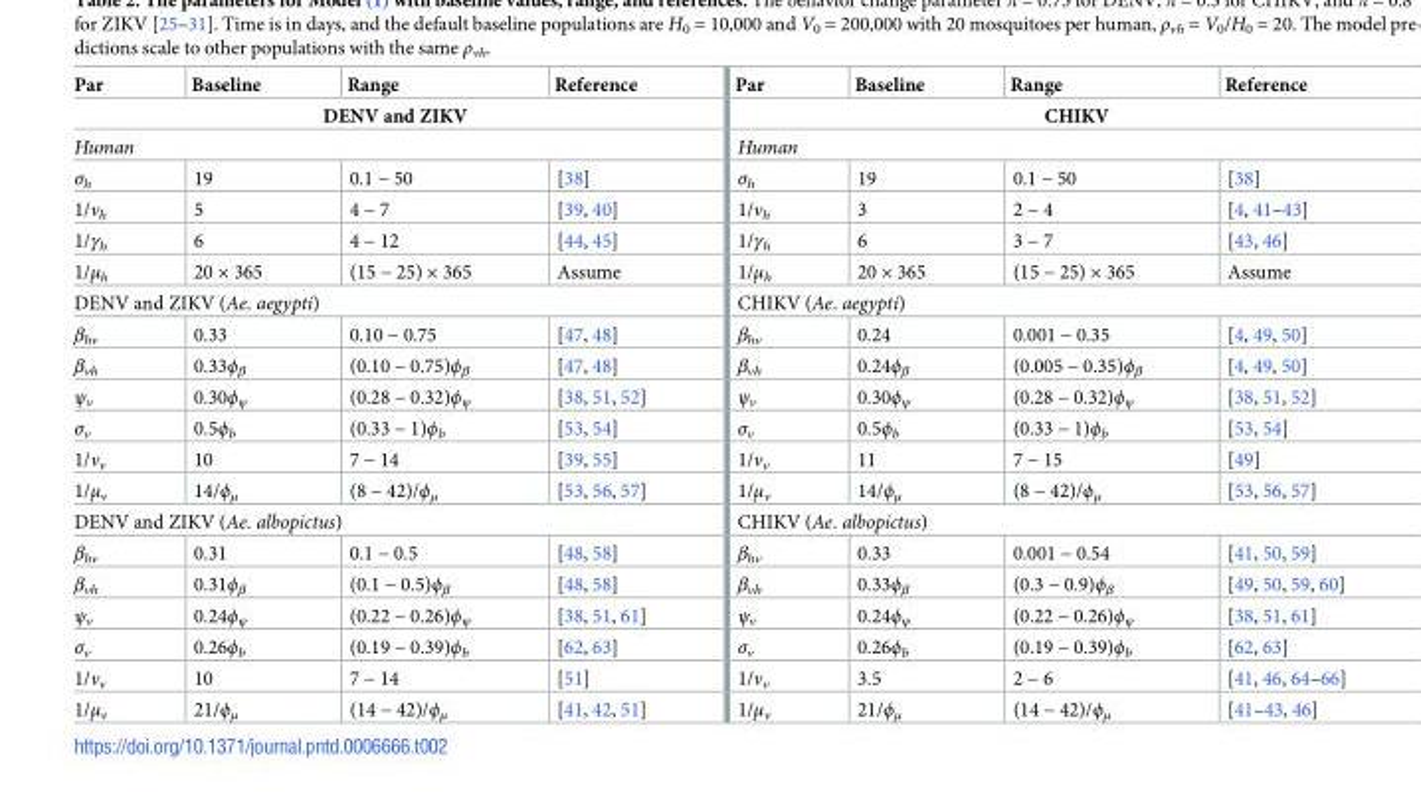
<table><thead><tr><td>Par</td><td>Baseline</td><td>Range</td><td>Reference</td><td>Par</td><td>Baseline</td><td>Range</td><td>Reference</td></tr><tr><td colspan="4">DENV and ZIKV</td><td colspan="4">CHIKV</td></tr></thead><tbody><tr><td colspan="4">Human</td><td colspan="4">Human</td></tr><tr><td>σ<sub>h</sub></td><td>19</td><td>0.1 − 50</td><td>[38]</td><td>σ<sub>h</sub></td><td>19</td><td>0.1 − 50</td><td>[38]</td></tr><tr><td>1/ν<sub>h</sub></td><td>5</td><td>4 − 7</td><td>[39, 40]</td><td>1/ν<sub>h</sub></td><td>3</td><td>2 − 4</td><td>[4, 41–43]</td></tr><tr><td>1/γ<sub>h</sub></td><td>6</td><td>4 − 12</td><td>[44, 45]</td><td>1/γ<sub>h</sub></td><td>6</td><td>3 − 7</td><td>[43, 46]</td></tr><tr><td>1/μ<sub>h</sub></td><td>20 × 365</td><td>(15 − 25) × 365</td><td>Assume</td><td>1/μ<sub>h</sub></td><td>20 × 365</td><td>(15 − 25) × 365</td><td>Assume</td></tr><tr><td colspan="4">DENV and ZIKV (Ae. aegypti)</td><td colspan="4">CHIKV (Ae. aegypti)</td></tr><tr><td>β<sub>hv</sub></td><td>0.33</td><td>0.10 − 0.75</td><td>[47, 48]</td><td>β<sub>hv</sub></td><td>0.24</td><td>0.001 − 0.35</td><td>[4, 49, 50]</td></tr><tr><td>β<sub>vh</sub></td><td>0.33ϕ<sub>β</sub></td><td>(0.10 − 0.75)ϕ<sub>β</sub></td><td>[47, 48]</td><td>β<sub>vh</sub></td><td>0.24ϕ<sub>β</sub></td><td>(0.005 − 0.35)ϕ<sub>β</sub></td><td>[4, 49, 50]</td></tr><tr><td>ψ<sub>v</sub></td><td>0.30ϕ<sub>ψ</sub></td><td>(0.28 − 0.32)ϕ<sub>ψ</sub></td><td>[38, 51, 52]</td><td>ψ<sub>v</sub></td><td>0.30ϕ<sub>ψ</sub></td><td>(0.28 − 0.32)ϕ<sub>ψ</sub></td><td>[38, 51, 52]</td></tr><tr><td>σ<sub>v</sub></td><td>0.5ϕ<sub>b</sub></td><td>(0.33 − 1)ϕ<sub>b</sub></td><td>[53, 54]</td><td>σ<sub>v</sub></td><td>0.5ϕ<sub>b</sub></td><td>(0.33 − 1)ϕ<sub>b</sub></td><td>[53, 54]</td></tr><tr><td>1/ν<sub>v</sub></td><td>10</td><td>7 − 14</td><td>[39, 55]</td><td>1/ν<sub>v</sub></td><td>11</td><td>7 − 15</td><td>[49]</td></tr><tr><td>1/μ<sub>v</sub></td><td>14/ϕ<sub>μ</sub></td><td>(8 − 42)/ϕ<sub>μ</sub></td><td>[53, 56, 57]</td><td>1/μ<sub>v</sub></td><td>14/ϕ<sub>μ</sub></td><td>(8 − 42)/ϕ<sub>μ</sub></td><td>[53, 56, 57]</td></tr><tr><td colspan="4">DENV and ZIKV (Ae. albopictus)</td><td colspan="4">CHIKV (Ae. albopictus)</td></tr><tr><td>β<sub>hv</sub></td><td>0.31</td><td>0.1 − 0.5</td><td>[48, 58]</td><td>β<sub>hv</sub></td><td>0.33</td><td>0.001 − 0.54</td><td>[41, 50, 59]</td></tr><tr><td>β<sub>vh</sub></td><td>0.31ϕ<sub>β</sub></td><td>(0.1 − 0.5)ϕ<sub>β</sub></td><td>[48, 58]</td><td>β<sub>vh</sub></td><td>0.33ϕ<sub>β</sub></td><td>(0.3 − 0.9)ϕ<sub>β</sub></td><td>[49, 50, 59, 60]</td></tr><tr><td>ψ<sub>v</sub></td><td>0.24ϕ<sub>ψ</sub></td><td>(0.22 − 0.26)ϕ<sub>ψ</sub></td><td>[38, 51, 61]</td><td>ψ<sub>v</sub></td><td>0.24ϕ<sub>ψ</sub></td><td>(0.22 − 0.26)ϕ<sub>ψ</sub></td><td>[38, 51, 61]</td></tr><tr><td>σ<sub>v</sub></td><td>0.26ϕ<sub>b</sub></td><td>(0.19 − 0.39)ϕ<sub>b</sub></td><td>[62, 63]</td><td>σ<sub>v</sub></td><td>0.26ϕ<sub>b</sub></td><td>(0.19 − 0.39)ϕ<sub>b</sub></td><td>[62, 63]</td></tr><tr><td>1/ν<sub>v</sub></td><td>10</td><td>7 − 14</td><td>[51]</td><td>1/ν<sub>v</sub></td><td>3.5</td><td>2 − 6</td><td>[41, 46, 64–66]</td></tr><tr><td>1/μ<sub>v</sub></td><td>21/ϕ<sub>μ</sub></td><td>(14 − 42)/ϕ<sub>μ</sub></td><td>[41, 42, 51]</td><td>1/μ<sub>v</sub></td><td>21/ϕ<sub>μ</sub></td><td>(14 − 42)/ϕ<sub>μ</sub></td><td>[41–43, 46]</td></tr></tbody></table>